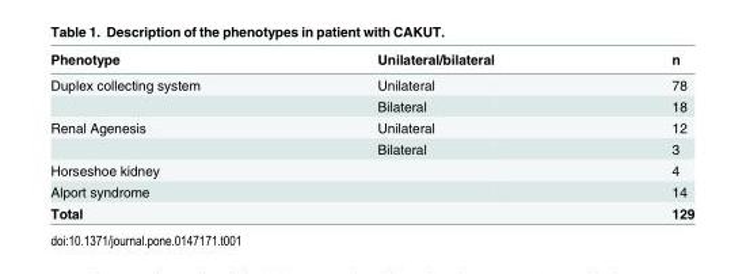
<table><thead><tr><td>Phenotype</td><td>Unilateral/bilateral</td><td>n</td></tr></thead><tbody><tr><td rowspan="2">Duplex collecting system</td><td>Unilateral</td><td>78</td></tr><tr><td>Bilateral</td><td>18</td></tr><tr><td rowspan="2">Renal Agenesis</td><td>Unilateral</td><td>12</td></tr><tr><td>Bilateral</td><td>3</td></tr><tr><td>Horseshoe kidney</td><td></td><td>4</td></tr><tr><td>Alport syndrome</td><td></td><td>14</td></tr><tr><td>Total</td><td></td><td>129</td></tr></tbody></table>